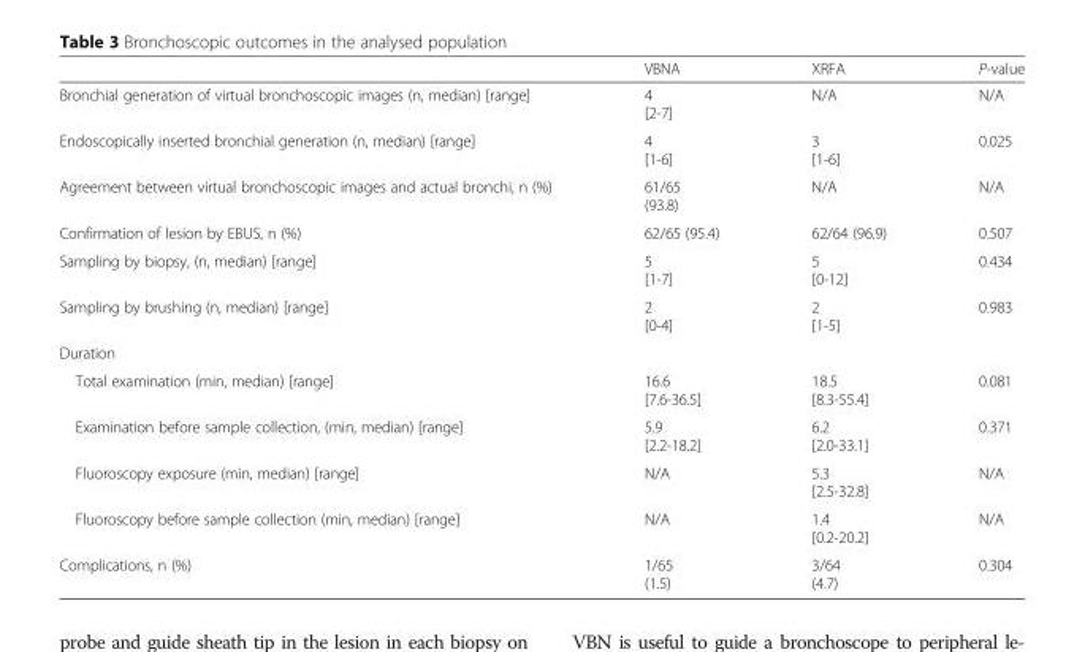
<table><thead><tr><td></td><td>VBNA</td><td>XRFA</td><td>P-value</td></tr></thead><tbody><tr><td>Bronchial generation of virtual bronchoscopic images (n, median) [range]</td><td>4 [2-7]</td><td>N/A</td><td>N/A</td></tr><tr><td>Endoscopically inserted bronchial generation (n, median) [range]</td><td>4 [1-6]</td><td>3 [1-6]</td><td>0.025</td></tr><tr><td>Agreement between virtual bronchoscopic images and actual bronchi, n (%)</td><td>61/65 (93.8)</td><td>N/A</td><td>N/A</td></tr><tr><td>Confirmation of lesion by EBUS, n (%)</td><td>62/65 (95.4)</td><td>62/64 (96.9)</td><td>0.507</td></tr><tr><td>Sampling by biopsy, (n, median) [range]</td><td>5 [1-7]</td><td>5 [0-12]</td><td>0.434</td></tr><tr><td>Sampling by brushing (n, median) [range]</td><td>2 [0-4]</td><td>2 [1-5]</td><td>0.983</td></tr><tr><td colspan="4">Duration</td></tr><tr><td>Total examination (min, median) [range]</td><td>16.6 [7.6-36.5]</td><td>18.5 [8.3-55.4]</td><td>0.081</td></tr><tr><td>Examination before sample collection, (min, median) [range]</td><td>5.9 [2.2-18.2]</td><td>6.2 [2.0-33.1]</td><td>0.371</td></tr><tr><td>Fluoroscopy exposure (min, median) [range]</td><td>N/A</td><td>5.3 [2.5-32.8]</td><td>N/A</td></tr><tr><td>Fluoroscopy before sample collection (min, median) [range]</td><td>N/A</td><td>1.4 [0.2-20.2]</td><td>N/A</td></tr><tr><td>Complications, n (%)</td><td>1/65 (1.5)</td><td>3/64 (4.7)</td><td>0.304</td></tr></tbody></table>